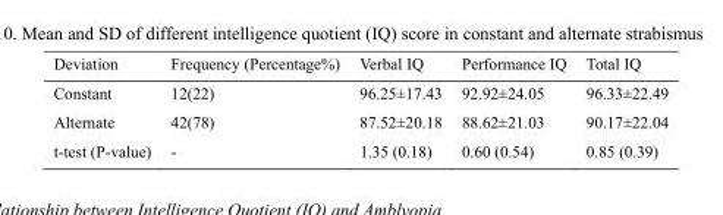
<table><thead><tr><td>Deviation</td><td>Frequency (Percentage%)</td><td>Verbal IQ</td><td>Performance IQ</td><td>Total IQ</td></tr></thead><tbody><tr><td>Constant</td><td>12(22)</td><td>96.25±17.43</td><td>92.92±24.05</td><td>96.33±22.49</td></tr><tr><td>Alternate</td><td>42(78)</td><td>87.52±20.18</td><td>88.62±21.03</td><td>90.17±22.04</td></tr><tr><td>t-test (P-value)</td><td>-</td><td>1.35 (0.18)</td><td>0.60 (0.54)</td><td>0.85 (0.39)</td></tr></tbody></table>